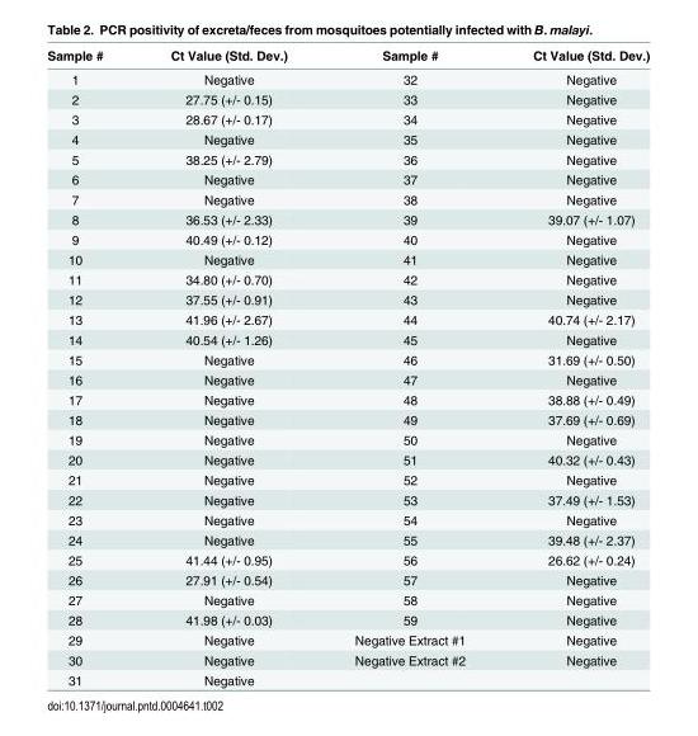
<table><thead><tr><td>Sample #</td><td>Ct Value (Std. Dev.)</td><td>Sample #</td><td>Ct Value (Std. Dev.)</td></tr></thead><tbody><tr><td>1</td><td>Negative</td><td>32</td><td>Negative</td></tr><tr><td>2</td><td>27.75 (+/- 0.15)</td><td>33</td><td>Negative</td></tr><tr><td>3</td><td>28.67 (+/- 0.17)</td><td>34</td><td>Negative</td></tr><tr><td>4</td><td>Negative</td><td>35</td><td>Negative</td></tr><tr><td>5</td><td>38.25 (+/- 2.79)</td><td>36</td><td>Negative</td></tr><tr><td>6</td><td>Negative</td><td>37</td><td>Negative</td></tr><tr><td>7</td><td>Negative</td><td>38</td><td>Negative</td></tr><tr><td>8</td><td>36.53 (+/- 2.33)</td><td>39</td><td>39.07 (+/- 1.07)</td></tr><tr><td>9</td><td>40.49 (+/- 0.12)</td><td>40</td><td>Negative</td></tr><tr><td>10</td><td>Negative</td><td>41</td><td>Negative</td></tr><tr><td>11</td><td>34.80 (+/- 0.70)</td><td>42</td><td>Negative</td></tr><tr><td>12</td><td>37.55 (+/- 0.91)</td><td>43</td><td>Negative</td></tr><tr><td>13</td><td>41.96 (+/- 2.67)</td><td>44</td><td>40.74 (+/- 2.17)</td></tr><tr><td>14</td><td>40.54 (+/- 1.26)</td><td>45</td><td>Negative</td></tr><tr><td>15</td><td>Negative</td><td>46</td><td>31.69 (+/- 0.50)</td></tr><tr><td>16</td><td>Negative</td><td>47</td><td>Negative</td></tr><tr><td>17</td><td>Negative</td><td>48</td><td>38.88 (+/- 0.49)</td></tr><tr><td>18</td><td>Negative</td><td>49</td><td>37.69 (+/- 0.69)</td></tr><tr><td>19</td><td>Negative</td><td>50</td><td>Negative</td></tr><tr><td>20</td><td>Negative</td><td>51</td><td>40.32 (+/- 0.43)</td></tr><tr><td>21</td><td>Negative</td><td>52</td><td>Negative</td></tr><tr><td>22</td><td>Negative</td><td>53</td><td>37.49 (+/- 1.53)</td></tr><tr><td>23</td><td>Negative</td><td>54</td><td>Negative</td></tr><tr><td>24</td><td>Negative</td><td>55</td><td>39.48 (+/- 2.37)</td></tr><tr><td>25</td><td>41.44 (+/- 0.95)</td><td>56</td><td>26.62 (+/- 0.24)</td></tr><tr><td>26</td><td>27.91 (+/- 0.54)</td><td>57</td><td>Negative</td></tr><tr><td>27</td><td>Negative</td><td>58</td><td>Negative</td></tr><tr><td>28</td><td>41.98 (+/- 0.03)</td><td>59</td><td>Negative</td></tr><tr><td>29</td><td>Negative</td><td>Negative Extract #1</td><td>Negative</td></tr><tr><td>30</td><td>Negative</td><td>Negative Extract #2</td><td>Negative</td></tr><tr><td>31</td><td>Negative</td><td></td><td></td></tr></tbody></table>